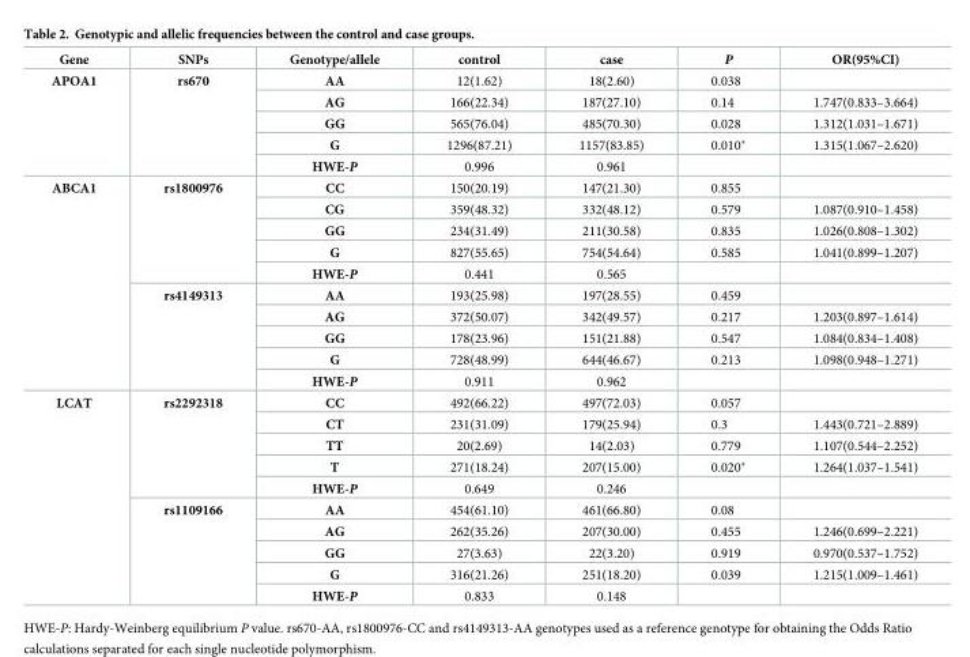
<table><thead><tr><td>Gene</td><td>SNPs</td><td>Genotype/allele</td><td>control</td><td>case</td><td>P</td><td>OR(95%CI)</td></tr></thead><tbody><tr><td rowspan="5">APOA1</td><td rowspan="5">rs670</td><td>AA</td><td>12(1.62)</td><td>18(2.60)</td><td>0.038</td><td></td></tr><tr><td>AG</td><td>166(22.34)</td><td>187(27.10)</td><td>0.14</td><td>1.747(0.833–3.664)</td></tr><tr><td>GG</td><td>565(76.04)</td><td>485(70.30)</td><td>0.028</td><td>1.312(1.031–1.671)</td></tr><tr><td>G</td><td>1296(87.21)</td><td>1157(83.85)</td><td>0.010*</td><td>1.315(1.067–2.620)</td></tr><tr><td>HWE-P</td><td>0.996</td><td>0.961</td><td></td><td></td></tr><tr><td rowspan="10">ABCA1</td><td rowspan="5">rs1800976</td><td>CC</td><td>150(20.19)</td><td>147(21.30)</td><td>0.855</td><td></td></tr><tr><td>CG</td><td>359(48.32)</td><td>332(48.12)</td><td>0.579</td><td>1.087(0.910–1.458)</td></tr><tr><td>GG</td><td>234(31.49)</td><td>211(30.58)</td><td>0.835</td><td>1.026(0.808–1.302)</td></tr><tr><td>G</td><td>827(55.65)</td><td>754(54.64)</td><td>0.585</td><td>1.041(0.899–1.207)</td></tr><tr><td>HWE-P</td><td>0.441</td><td>0.565</td><td></td><td></td></tr><tr><td rowspan="5">rs4149313</td><td>AA</td><td>193(25.98)</td><td>197(28.55)</td><td>0.459</td><td></td></tr><tr><td>AG</td><td>372(50.07)</td><td>342(49.57)</td><td>0.217</td><td>1.203(0.897–1.614)</td></tr><tr><td>GG</td><td>178(23.96)</td><td>151(21.88)</td><td>0.547</td><td>1.084(0.834–1.408)</td></tr><tr><td>G</td><td>728(48.99)</td><td>644(46.67)</td><td>0.213</td><td>1.098(0.948–1.271)</td></tr><tr><td>HWE-P</td><td>0.911</td><td>0.962</td><td></td><td></td></tr><tr><td rowspan="10">LCAT</td><td rowspan="5">rs2292318</td><td>CC</td><td>492(66.22)</td><td>497(72.03)</td><td>0.057</td><td></td></tr><tr><td>CT</td><td>231(31.09)</td><td>179(25.94)</td><td>0.3</td><td>1.443(0.721–2.889)</td></tr><tr><td>TT</td><td>20(2.69)</td><td>14(2.03)</td><td>0.779</td><td>1.107(0.544–2.252)</td></tr><tr><td>T</td><td>271(18.24)</td><td>207(15.00)</td><td>0.020*</td><td>1.264(1.037–1.541)</td></tr><tr><td>HWE-P</td><td>0.649</td><td>0.246</td><td></td><td></td></tr><tr><td rowspan="5">rs1109166</td><td>AA</td><td>454(61.10)</td><td>461(66.80)</td><td>0.08</td><td></td></tr><tr><td>AG</td><td>262(35.26)</td><td>207(30.00)</td><td>0.455</td><td>1.246(0.699–2.221)</td></tr><tr><td>GG</td><td>27(3.63)</td><td>22(3.20)</td><td>0.919</td><td>0.970(0.537–1.752)</td></tr><tr><td>G</td><td>316(21.26)</td><td>251(18.20)</td><td>0.039</td><td>1.215(1.009–1.461)</td></tr><tr><td>HWE-P</td><td>0.833</td><td>0.148</td><td></td><td></td></tr></tbody></table>